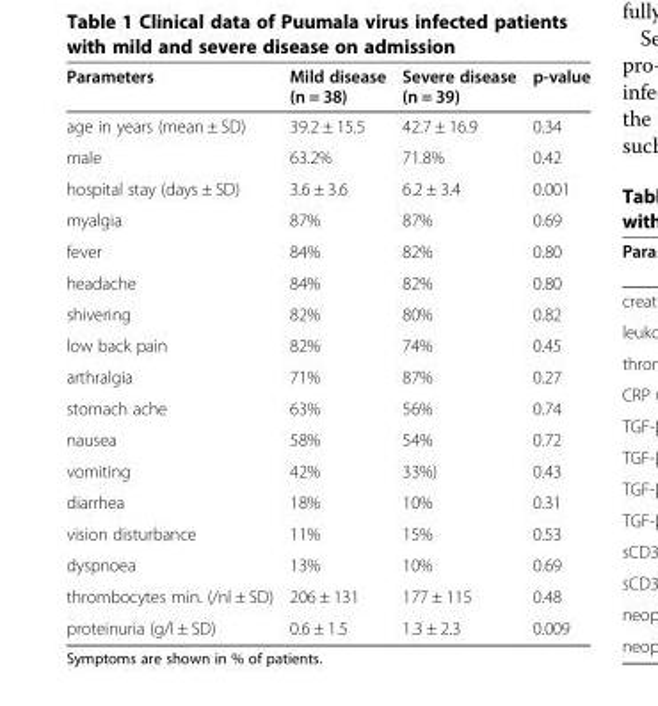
<table><thead><tr><td>Parameters</td><td>Mild disease (n = 38)</td><td>Severe disease (n = 39)</td><td>p-value</td></tr></thead><tbody><tr><td>age in years (mean ± SD)</td><td>39.2 ± 15.5</td><td>42.7 ± 16.9</td><td>0.34</td></tr><tr><td>male</td><td>63.2%</td><td>71.8%</td><td>0.42</td></tr><tr><td>hospital stay (days ± SD)</td><td>3.6 ± 3.6</td><td>6.2 ± 3.4</td><td>0.001</td></tr><tr><td>myalgia</td><td>87%</td><td>87%</td><td>0.69</td></tr><tr><td>fever</td><td>84%</td><td>82%</td><td>0.80</td></tr><tr><td>headache</td><td>84%</td><td>82%</td><td>0.80</td></tr><tr><td>shivering</td><td>82%</td><td>80%</td><td>0.82</td></tr><tr><td>low back pain</td><td>82%</td><td>74%</td><td>0.45</td></tr><tr><td>arthralgia</td><td>71%</td><td>87%</td><td>0.27</td></tr><tr><td>stomach ache</td><td>63%</td><td>56%</td><td>0.74</td></tr><tr><td>nausea</td><td>58%</td><td>54%</td><td>0.72</td></tr><tr><td>vomiting</td><td>42%</td><td>33%)</td><td>0.43</td></tr><tr><td>diarrhea</td><td>18%</td><td>10%</td><td>0.31</td></tr><tr><td>vision disturbance</td><td>11%</td><td>15%</td><td>0.53</td></tr><tr><td>dyspnoea</td><td>13%</td><td>10%</td><td>0.69</td></tr><tr><td>thrombocytes min. (/nl ± SD)</td><td>206 ± 131</td><td>177 ± 115</td><td>0.48</td></tr><tr><td>proteinuria (g/l ± SD)</td><td>0.6 ± 1.5</td><td>1.3 ± 2.3</td><td>0.009</td></tr></tbody></table>